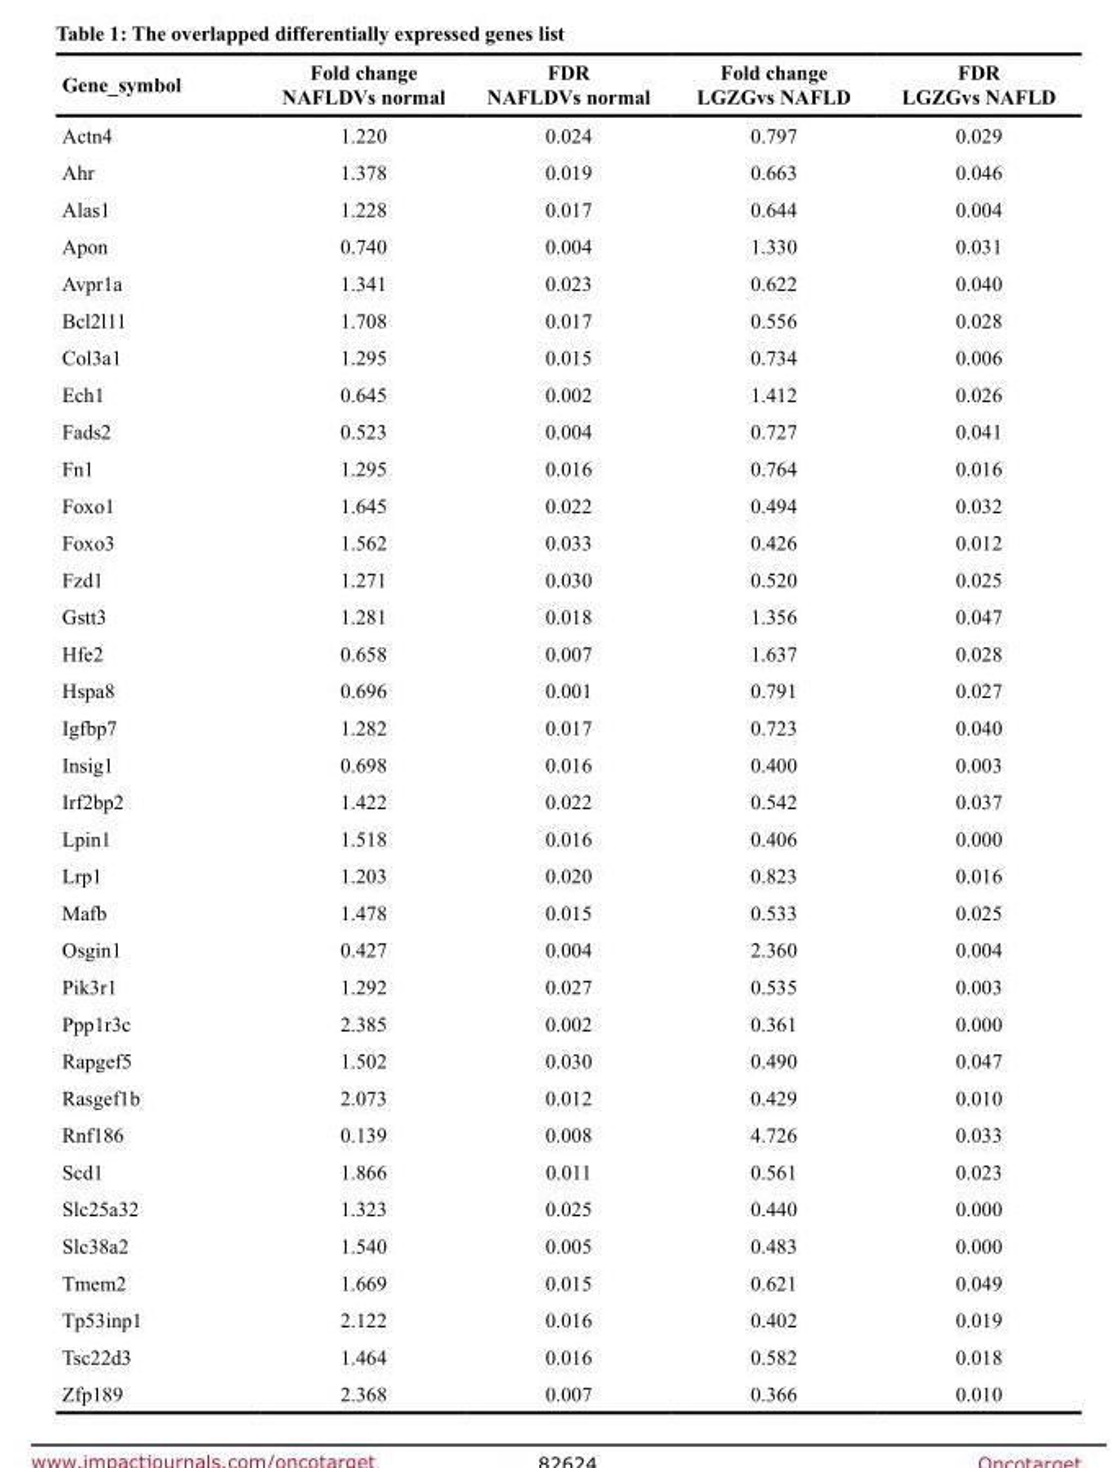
<table><thead><tr><td>Gene_symbol</td><td>Fold change NAFLDVs normal</td><td>FDR NAFLDVs normal</td><td>Fold change LGZGvs NAFLD</td><td>FDR LGZGvs NAFLD</td></tr></thead><tbody><tr><td>Actn4</td><td>1.220</td><td>0.024</td><td>0.797</td><td>0.029</td></tr><tr><td>Ahr</td><td>1.378</td><td>0.019</td><td>0.663</td><td>0.046</td></tr><tr><td>Alas1</td><td>1.228</td><td>0.017</td><td>0.644</td><td>0.004</td></tr><tr><td>Apon</td><td>0.740</td><td>0.004</td><td>1.330</td><td>0.031</td></tr><tr><td>Avpr1a</td><td>1.341</td><td>0.023</td><td>0.622</td><td>0.040</td></tr><tr><td>Bcl2l11</td><td>1.708</td><td>0.017</td><td>0.556</td><td>0.028</td></tr><tr><td>Col3a1</td><td>1.295</td><td>0.015</td><td>0.734</td><td>0.006</td></tr><tr><td>Ech1</td><td>0.645</td><td>0.002</td><td>1.412</td><td>0.026</td></tr><tr><td>Fads2</td><td>0.523</td><td>0.004</td><td>0.727</td><td>0.041</td></tr><tr><td>Fn1</td><td>1.295</td><td>0.016</td><td>0.764</td><td>0.016</td></tr><tr><td>Foxo1</td><td>1.645</td><td>0.022</td><td>0.494</td><td>0.032</td></tr><tr><td>Foxo3</td><td>1.562</td><td>0.033</td><td>0.426</td><td>0.012</td></tr><tr><td>Fzd1</td><td>1.271</td><td>0.030</td><td>0.520</td><td>0.025</td></tr><tr><td>Gstt3</td><td>1.281</td><td>0.018</td><td>1.356</td><td>0.047</td></tr><tr><td>Hfe2</td><td>0.658</td><td>0.007</td><td>1.637</td><td>0.028</td></tr><tr><td>Hspa8</td><td>0.696</td><td>0.001</td><td>0.791</td><td>0.027</td></tr><tr><td>Igfbp7</td><td>1.282</td><td>0.017</td><td>0.723</td><td>0.040</td></tr><tr><td>Insig1</td><td>0.698</td><td>0.016</td><td>0.400</td><td>0.003</td></tr><tr><td>Irf2bp2</td><td>1.422</td><td>0.022</td><td>0.542</td><td>0.037</td></tr><tr><td>Lpin1</td><td>1.518</td><td>0.016</td><td>0.406</td><td>0.000</td></tr><tr><td>Lrp1</td><td>1.203</td><td>0.020</td><td>0.823</td><td>0.016</td></tr><tr><td>Mafb</td><td>1.478</td><td>0.015</td><td>0.533</td><td>0.025</td></tr><tr><td>Osgin1</td><td>0.427</td><td>0.004</td><td>2.360</td><td>0.004</td></tr><tr><td>Pik3r1</td><td>1.292</td><td>0.027</td><td>0.535</td><td>0.003</td></tr><tr><td>Ppp1r3c</td><td>2.385</td><td>0.002</td><td>0.361</td><td>0.000</td></tr><tr><td>Rapgef5</td><td>1.502</td><td>0.030</td><td>0.490</td><td>0.047</td></tr><tr><td>Rasgef1b</td><td>2.073</td><td>0.012</td><td>0.429</td><td>0.010</td></tr><tr><td>Rnf186</td><td>0.139</td><td>0.008</td><td>4.726</td><td>0.033</td></tr><tr><td>Scd1</td><td>1.866</td><td>0.011</td><td>0.561</td><td>0.023</td></tr><tr><td>Slc25a32</td><td>1.323</td><td>0.025</td><td>0.440</td><td>0.000</td></tr><tr><td>Slc38a2</td><td>1.540</td><td>0.005</td><td>0.483</td><td>0.000</td></tr><tr><td>Tmem2</td><td>1.669</td><td>0.015</td><td>0.621</td><td>0.049</td></tr><tr><td>Tp53inp1</td><td>2.122</td><td>0.016</td><td>0.402</td><td>0.019</td></tr><tr><td>Tsc22d3</td><td>1.464</td><td>0.016</td><td>0.582</td><td>0.018</td></tr><tr><td>Zfp189</td><td>2.368</td><td>0.007</td><td>0.366</td><td>0.010</td></tr></tbody></table>